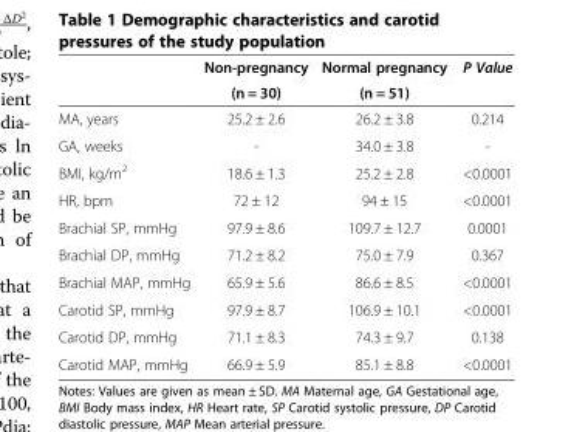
<table><thead><tr><td rowspan="2"></td><td rowspan="2">Non-pregnancy (n = 30)</td><td rowspan="2">Normal pregnancy (n = 51)</td><td rowspan="2">P Value</td></tr><tr></tr></thead><tbody><tr><td>MA, years</td><td>25.2 ± 2.6</td><td>26.2 ± 3.8</td><td>0.214</td></tr><tr><td>GA, weeks</td><td>-</td><td>34.0 ± 3.8</td><td>-</td></tr><tr><td>BMI, kg/m<sup>2</sup></td><td>18.6 ± 1.3</td><td>25.2 ± 2.8</td><td>&lt;0.0001</td></tr><tr><td>HR, bpm</td><td>72 ± 12</td><td>94 ± 15</td><td>&lt;0.0001</td></tr><tr><td>Brachial SP, mmHg</td><td>97.9 ± 8.6</td><td>109.7 ± 12.7</td><td>0.0001</td></tr><tr><td>Brachial DP, mmHg</td><td>71.2 ± 8.2</td><td>75.0 ± 7.9</td><td>0.367</td></tr><tr><td>Brachial MAP, mmHg</td><td>65.9 ± 5.6</td><td>86.6 ± 8.5</td><td>&lt;0.0001</td></tr><tr><td>Carotid SP, mmHg</td><td>97.9 ± 8.7</td><td>106.9 ± 10.1</td><td>&lt;0.0001</td></tr><tr><td>Carotid DP, mmHg</td><td>71.1 ± 8.3</td><td>74.3 ± 9.7</td><td>0.138</td></tr><tr><td>Carotid MAP, mmHg</td><td>66.9 ± 5.9</td><td>85.1 ± 8.8</td><td>&lt;0.0001</td></tr></tbody></table>